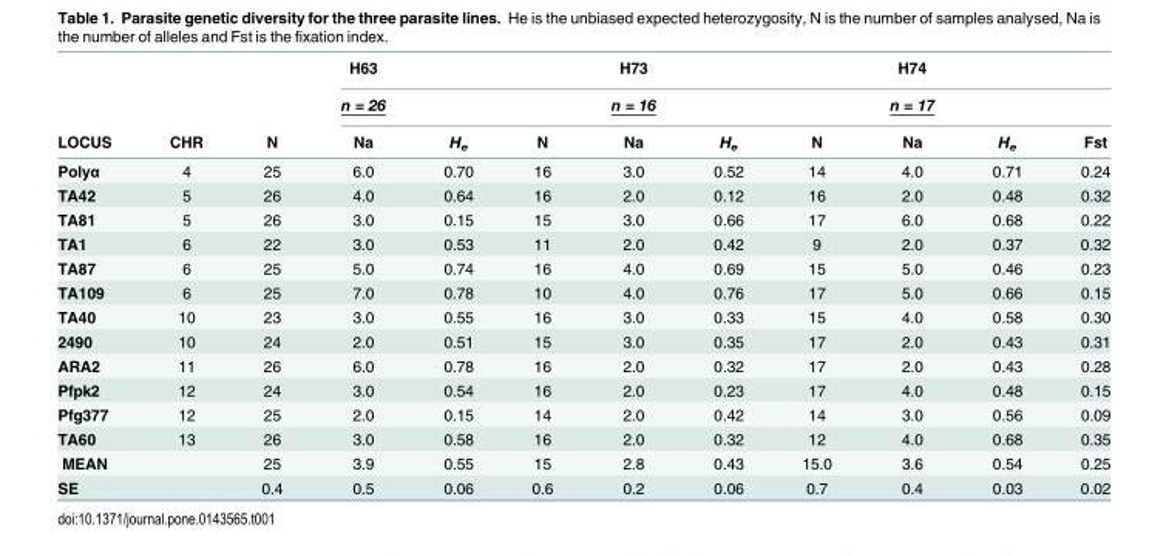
<table><thead><tr><td rowspan="3">LOCUS</td><td rowspan="3">CHR</td><td rowspan="3">N</td><td rowspan="3">H63 n = 26 Na</td><td rowspan="3">H<sub>e</sub></td><td rowspan="3">N</td><td rowspan="3">H73 n = 16 Na</td><td rowspan="3">H<sub>e</sub></td><td rowspan="3">N</td><td rowspan="3">H74 n = 17 Na</td><td rowspan="3">H<sub>e</sub></td><td rowspan="3">Fst</td></tr><tr></tr><tr></tr></thead><tbody><tr><td>Polyα</td><td>4</td><td>25</td><td>6.0</td><td>0.70</td><td>16</td><td>3.0</td><td>0.52</td><td>14</td><td>4.0</td><td>0.71</td><td>0.24</td></tr><tr><td>TA42</td><td>5</td><td>26</td><td>4.0</td><td>0.64</td><td>16</td><td>2.0</td><td>0.12</td><td>16</td><td>2.0</td><td>0.48</td><td>0.32</td></tr><tr><td>TA81</td><td>5</td><td>26</td><td>3.0</td><td>0.15</td><td>15</td><td>3.0</td><td>0.66</td><td>17</td><td>6.0</td><td>0.68</td><td>0.22</td></tr><tr><td>TA1</td><td>6</td><td>22</td><td>3.0</td><td>0.53</td><td>11</td><td>2.0</td><td>0.42</td><td>9</td><td>2.0</td><td>0.37</td><td>0.32</td></tr><tr><td>TA87</td><td>6</td><td>25</td><td>5.0</td><td>0.74</td><td>16</td><td>4.0</td><td>0.69</td><td>15</td><td>5.0</td><td>0.46</td><td>0.23</td></tr><tr><td>TA109</td><td>6</td><td>25</td><td>7.0</td><td>0.78</td><td>10</td><td>4.0</td><td>0.76</td><td>17</td><td>5.0</td><td>0.66</td><td>0.15</td></tr><tr><td>TA40</td><td>10</td><td>23</td><td>3.0</td><td>0.55</td><td>16</td><td>3.0</td><td>0.33</td><td>15</td><td>4.0</td><td>0.58</td><td>0.30</td></tr><tr><td>2490</td><td>10</td><td>24</td><td>2.0</td><td>0.51</td><td>15</td><td>3.0</td><td>0.35</td><td>17</td><td>2.0</td><td>0.43</td><td>0.31</td></tr><tr><td>ARA2</td><td>11</td><td>26</td><td>6.0</td><td>0.78</td><td>16</td><td>2.0</td><td>0.32</td><td>17</td><td>2.0</td><td>0.43</td><td>0.28</td></tr><tr><td>Pfpk2</td><td>12</td><td>24</td><td>3.0</td><td>0.54</td><td>16</td><td>2.0</td><td>0.23</td><td>17</td><td>4.0</td><td>0.48</td><td>0.15</td></tr><tr><td>Pfg377</td><td>12</td><td>25</td><td>2.0</td><td>0.15</td><td>14</td><td>2.0</td><td>0.42</td><td>14</td><td>3.0</td><td>0.56</td><td>0.09</td></tr><tr><td>TA60</td><td>13</td><td>26</td><td>3.0</td><td>0.58</td><td>16</td><td>2.0</td><td>0.32</td><td>12</td><td>4.0</td><td>0.68</td><td>0.35</td></tr><tr><td>MEAN</td><td></td><td>25</td><td>3.9</td><td>0.55</td><td>15</td><td>2.8</td><td>0.43</td><td>15.0</td><td>3.6</td><td>0.54</td><td>0.25</td></tr><tr><td>SE</td><td></td><td>0.4</td><td>0.5</td><td>0.06</td><td>0.6</td><td>0.2</td><td>0.06</td><td>0.7</td><td>0.4</td><td>0.03</td><td>0.02</td></tr></tbody></table>